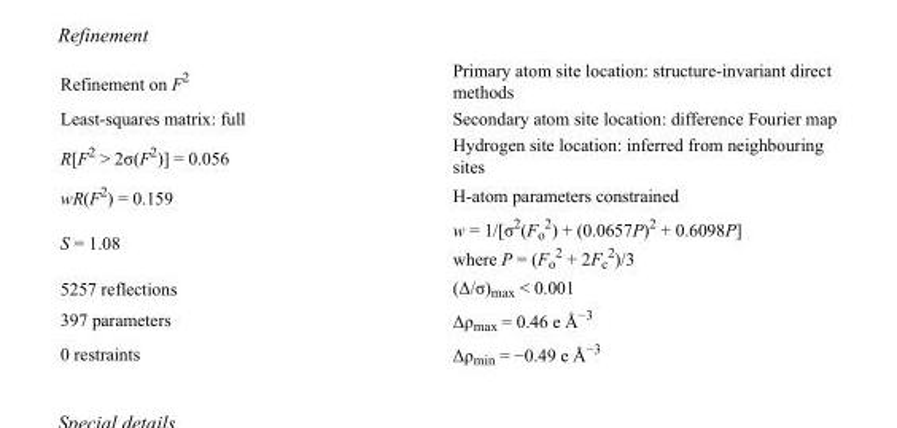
<table><tbody><tr><td>Refinement on F<sup>2</sup></td><td>Primary atom site location: structure-invariant direct methods</td></tr><tr><td>Least-squares matrix: full</td><td>Secondary atom site location: difference Fourier map</td></tr><tr><td>R[F<sup>2</sup> &gt; 2σ(F<sup>2</sup>)] = 0.056</td><td>Hydrogen site location: inferred from neighbouring sites</td></tr><tr><td>wR(F<sup>2</sup>) = 0.159</td><td>H-atom parameters constrained</td></tr><tr><td>S = 1.08</td><td>w = 1/[σ<sup>2</sup>(F<sub>o</sub> <sup>2</sup>) + (0.0657P)<sup>2</sup> + 0.6098P] where P = (F<sub>o</sub> <sup>2</sup> + 2F<sub>c</sub> <sup>2</sup>)/3</td></tr><tr><td>5257 reflections</td><td>(Δ/σ)<sub>max</sub> &lt; 0.001</td></tr><tr><td>397 parameters</td><td>Δρ<sub>max</sub> = 0.46 e Å<sup>−3</sup></td></tr><tr><td>0 restraints</td><td>Δρ<sub>min</sub> = −0.49 e Å<sup>−3</sup></td></tr></tbody></table>